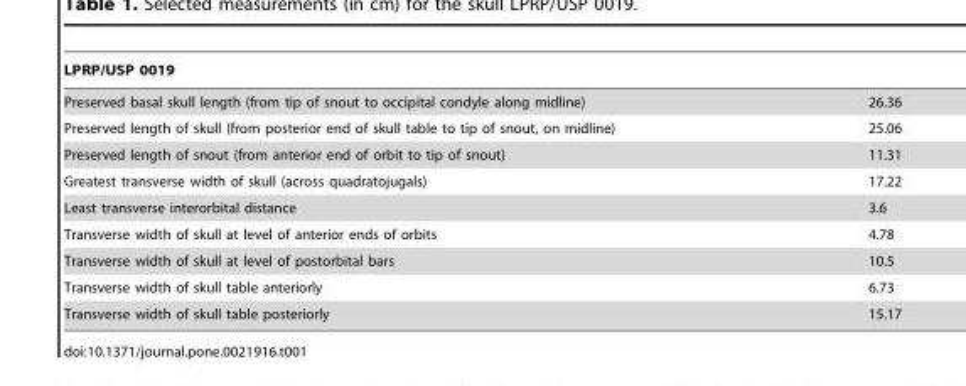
<table><thead><tr><td>LPRP/USP 0019</td><td></td></tr></thead><tbody><tr><td>Preserved basal skull length (from tip of snout to occipital condyle along midline)</td><td>26.36</td></tr><tr><td>Preserved length of skull (from posterior end of skull table to tip of snout, on midline)</td><td>25.06</td></tr><tr><td>Preserved length of snout (from anterior end of orbit to tip of snout)</td><td>11.31</td></tr><tr><td>Greatest transverse width of skull (across quadratojugals)</td><td>17.22</td></tr><tr><td>Least transverse interorbital distance</td><td>3.6</td></tr><tr><td>Transverse width of skull at level of anterior ends of orbits</td><td>4.78</td></tr><tr><td>Transverse width of skull at level of postorbital bars</td><td>10.5</td></tr><tr><td>Transverse width of skull table anteriorly</td><td>6.73</td></tr><tr><td>Transverse width of skull table posteriorly</td><td>15.17</td></tr></tbody></table>